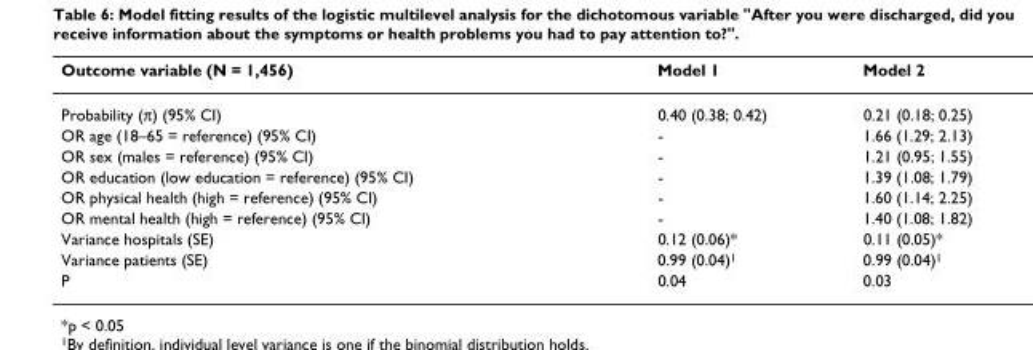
<table><thead><tr><td>Outcome variable (N = 1,456)</td><td>Model 1</td><td>Model 2</td></tr></thead><tbody><tr><td>Probability (π) (95% CI)</td><td>0.40 (0.38; 0.42)</td><td>0.21 (0.18; 0.25)</td></tr><tr><td>OR age (18–65 = reference) (95% CI)</td><td>-</td><td>1.66 (1.29; 2.13)</td></tr><tr><td>OR sex (males = reference) (95% CI)</td><td>-</td><td>1.21 (0.95; 1.55)</td></tr><tr><td>OR education (low education = reference) (95% CI)</td><td>-</td><td>1.39 (1.08; 1.79)</td></tr><tr><td>OR physical health (high = reference) (95% CI)</td><td>-</td><td>1.60 (1.14; 2.25)</td></tr><tr><td>OR mental health (high = reference) (95% CI)</td><td>-</td><td>1.40 (1.08; 1.82)</td></tr><tr><td>Variance hospitals (SE)</td><td>0.12 (0.06)*</td><td>0.11 (0.05)*</td></tr><tr><td>Variance patients (SE)</td><td>0.99 (0.04)<sup>1</sup></td><td>0.99 (0.04)<sup>1</sup></td></tr><tr><td>P</td><td>0.04</td><td>0.03</td></tr></tbody></table>